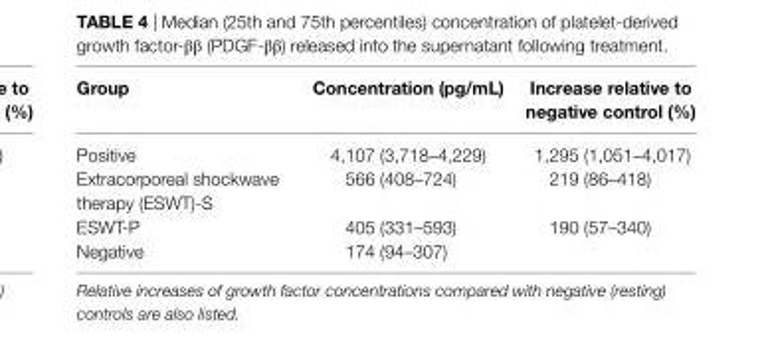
<table><thead><tr><td>group</td><td>concentration (pg/ml)</td><td>increase relative to negative control (%)</td></tr></thead><tbody><tr><td>Positive</td><td>4,107 (3,718–4,229)</td><td>1,295 (1,051–4,017)</td></tr><tr><td>Extracorporeal shockwave therapy (ESWT)-S</td><td>566 (408–724)</td><td>219 (86–418)</td></tr><tr><td>ESWT-P</td><td>405 (331–593)</td><td>190 (57–340)</td></tr><tr><td>Negative</td><td>174 (94–307)</td><td></td></tr></tbody></table>